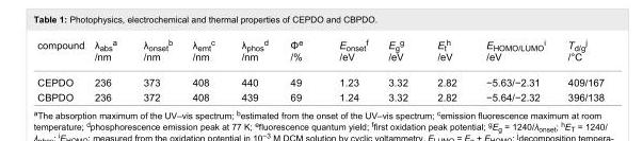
<table><tbody><tr><td>compound</td><td>λ<sub>abs</sub><sup>a</sup> /nm</td><td>λ<sub>onset</sub><sup>b</sup> /nm</td><td>λ<sub>emt</sub><sup>c</sup> /nm</td><td>λ<sub>phos</sub><sup>d</sup> /nm</td><td>Φ<sup>e</sup> /%</td><td>E<sub>onset</sub><sup>f</sup> /eV</td><td>E<sub>g</sub><sup>g</sup> /eV</td><td>E<sub>t</sub><sup>h</sup> /eV</td><td>E<sub>HOMO/LUMO</sub><sup>i</sup> /eV</td><td>T<sub>d/g</sub><sup>j</sup> /°C</td></tr><tr><td>CEPDO</td><td>236</td><td>373</td><td>408</td><td>440</td><td>49</td><td>1.23</td><td>3.32</td><td>2.82</td><td>−5.63/−2.31</td><td>409/167</td></tr><tr><td>CBPDO</td><td>236</td><td>372</td><td>408</td><td>439</td><td>69</td><td>1.24</td><td>3.32</td><td>2.82</td><td>−5.64/−2.32</td><td>396/138</td></tr></tbody></table>